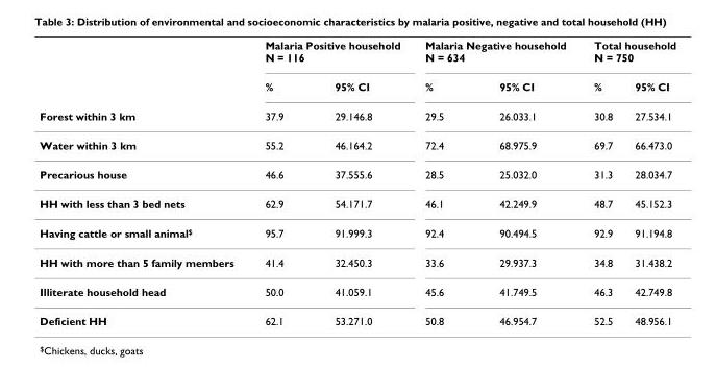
<table><thead><tr><td rowspan="2"></td><td colspan="2">Malaria Positive household N = 116</td><td colspan="2">Malaria Negative household N = 634</td><td colspan="2">Total household N = 750</td></tr><tr><td>%</td><td>95% CI</td><td>%</td><td>95% CI</td><td>%</td><td>95% CI</td></tr></thead><tbody><tr><td>Forest within 3 km</td><td>37.9</td><td>29.146.8</td><td>29.5</td><td>26.033.1</td><td>30.8</td><td>27.534.1</td></tr><tr><td>Water within 3 km</td><td>55.2</td><td>46.164.2</td><td>72.4</td><td>68.975.9</td><td>69.7</td><td>66.473.0</td></tr><tr><td>Precarious house</td><td>46.6</td><td>37.555.6</td><td>28.5</td><td>25.032.0</td><td>31.3</td><td>28.034.7</td></tr><tr><td>HH with less than 3 bed nets</td><td>62.9</td><td>54.171.7</td><td>46.1</td><td>42.249.9</td><td>48.7</td><td>45.152.3</td></tr><tr><td>Having cattle or small animal<sup>$</sup></td><td>95.7</td><td>91.999.3</td><td>92.4</td><td>90.494.5</td><td>92.9</td><td>91.194.8</td></tr><tr><td>HH with more than 5 family members</td><td>41.4</td><td>32.450.3</td><td>33.6</td><td>29.937.3</td><td>34.8</td><td>31.438.2</td></tr><tr><td>Illiterate household head</td><td>50.0</td><td>41.059.1</td><td>45.6</td><td>41.749.5</td><td>46.3</td><td>42.749.8</td></tr><tr><td>Deficient HH</td><td>62.1</td><td>53.271.0</td><td>50.8</td><td>46.954.7</td><td>52.5</td><td>48.956.1</td></tr></tbody></table>